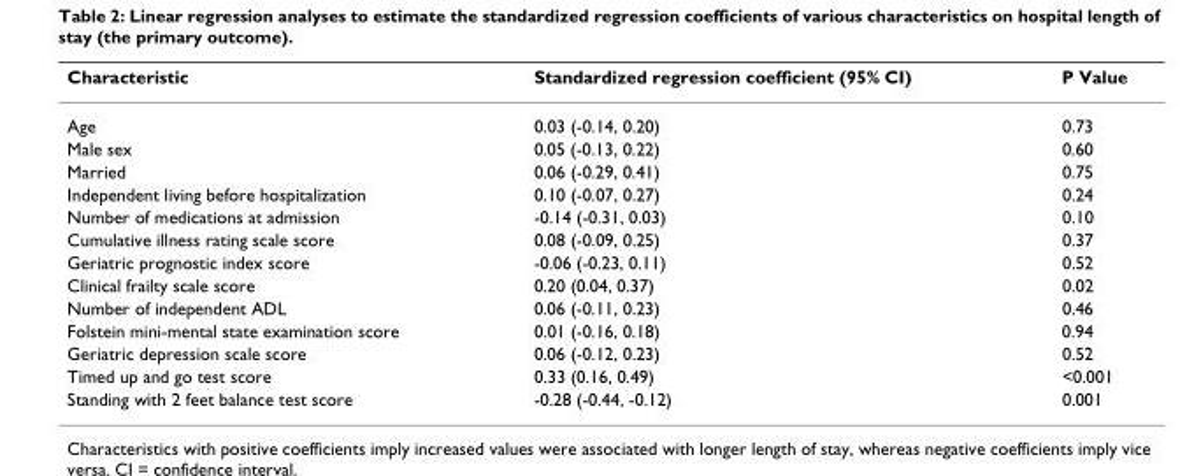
<table><thead><tr><td>Characteristic</td><td>Standardized regression coefficient (95% CI)</td><td>P Value</td></tr></thead><tbody><tr><td>Age</td><td>0.03 (-0.14, 0.20)</td><td>0.73</td></tr><tr><td>Male sex</td><td>0.05 (-0.13, 0.22)</td><td>0.60</td></tr><tr><td>Married</td><td>0.06 (-0.29, 0.41)</td><td>0.75</td></tr><tr><td>Independent living before hospitalization</td><td>0.10 (-0.07, 0.27)</td><td>0.24</td></tr><tr><td>Number of medications at admission</td><td>-0.14 (-0.31, 0.03)</td><td>0.10</td></tr><tr><td>Cumulative illness rating scale score</td><td>0.08 (-0.09, 0.25)</td><td>0.37</td></tr><tr><td>Geriatric prognostic index score</td><td>-0.06 (-0.23, 0.11)</td><td>0.52</td></tr><tr><td>Clinical frailty scale score</td><td>0.20 (0.04, 0.37)</td><td>0.02</td></tr><tr><td>Number of independent ADL</td><td>0.06 (-0.11, 0.23)</td><td>0.46</td></tr><tr><td>Folstein mini-mental state examination score</td><td>0.01 (-0.16, 0.18)</td><td>0.94</td></tr><tr><td>Geriatric depression scale score</td><td>0.06 (-0.12, 0.23)</td><td>0.52</td></tr><tr><td>Timed up and go test score</td><td>0.33 (0.16, 0.49)</td><td>&lt;0.001</td></tr><tr><td>Standing with 2 feet balance test score</td><td>-0.28 (-0.44, -0.12)</td><td>0.001</td></tr></tbody></table>